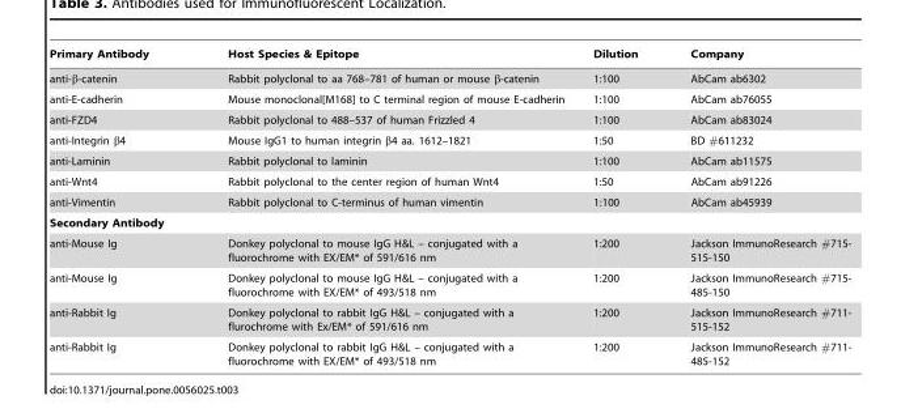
<table><thead><tr><td>Primary Antibody</td><td>Host Species &amp; Epitope</td><td>Dilution</td><td>Company</td></tr></thead><tbody><tr><td>anti-β-catenin</td><td>Rabbit polyclonal to aa 768–781 of human or mouse β-catenin</td><td>1:100</td><td>AbCam ab6302</td></tr><tr><td>anti-E-cadherin</td><td>Mouse monoclonal[M168] to C terminal region of mouse E-cadherin</td><td>1:100</td><td>AbCam ab76055</td></tr><tr><td>anti-FZD4</td><td>Rabbit polyclonal to 488–537 of human Frizzled 4</td><td>1:100</td><td>AbCam ab83024</td></tr><tr><td>anti-Integrin β4</td><td>Mouse IgG1 to human integrin β4 aa. 1612–1821</td><td>1:50</td><td>BD #611232</td></tr><tr><td>anti-Laminin</td><td>Rabbit polyclonal to laminin</td><td>1:100</td><td>AbCam ab11575</td></tr><tr><td>anti-Wnt4</td><td>Rabbit polyclonal to the center region of human Wnt4</td><td>1:50</td><td>AbCam ab91226</td></tr><tr><td>anti-Vimentin</td><td>Rabbit polyclonal to C-terminus of human vimentin</td><td>1:100</td><td>AbCam ab45939</td></tr><tr><td colspan="4">Secondary Antibody</td></tr><tr><td>anti-Mouse Ig</td><td>Donkey polyclonal to mouse IgG H&amp;L – conjugated with a fluorochrome with EX/EM* of 591/616 nm</td><td>1:200</td><td>Jackson ImmunoResearch #715- 515-150</td></tr><tr><td>anti-Mouse Ig</td><td>Donkey polyclonal to mouse IgG H&amp;L – conjugated with a fluorochrome with EX/EM* of 493/518 nm</td><td>1:200</td><td>Jackson ImmunoResearch #715- 485-150</td></tr><tr><td>anti-Rabbit Ig</td><td>Donkey polyclonal to rabbit IgG H&amp;L – conjugated with a flurochrome with Ex/EM* of 591/616 nm</td><td>1:200</td><td>Jackson ImmunoResearch #711- 515-152</td></tr><tr><td>anti-Rabbit Ig</td><td>Donkey polyclonal to rabbit IgG H&amp;L – conjugated with a fluorochrome with EX/EM* of 493/518 nm</td><td>1:200</td><td>Jackson ImmunoResearch #711- 485-152</td></tr></tbody></table>